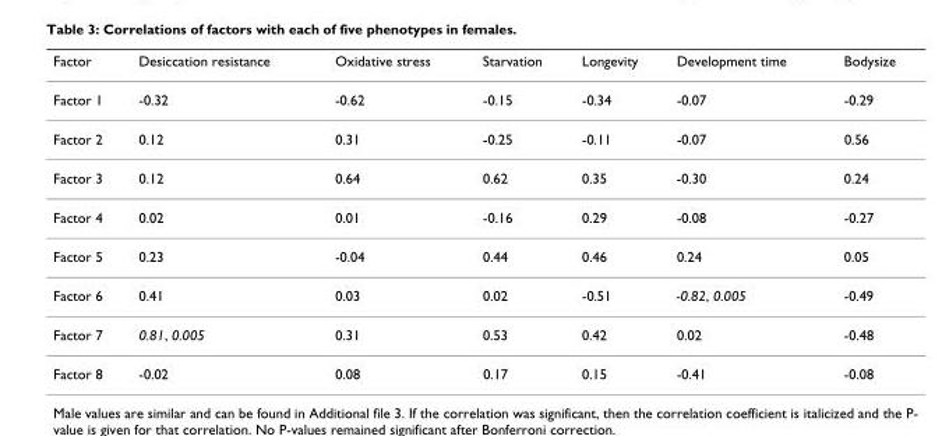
<table><thead><tr><td>Factor</td><td>Desiccation resistance</td><td>Oxidative stress</td><td>Starvation</td><td>Longevity</td><td>Development time</td><td>Bodysize</td></tr></thead><tbody><tr><td>Factor 1</td><td>-0.32</td><td>-0.62</td><td>-0.15</td><td>-0.34</td><td>-0.07</td><td>-0.29</td></tr><tr><td>Factor 2</td><td>0.12</td><td>0.31</td><td>-0.25</td><td>-0.11</td><td>-0.07</td><td>0.56</td></tr><tr><td>Factor 3</td><td>0.12</td><td>0.64</td><td>0.62</td><td>0.35</td><td>-0.30</td><td>0.24</td></tr><tr><td>Factor 4</td><td>0.02</td><td>0.01</td><td>-0.16</td><td>0.29</td><td>-0.08</td><td>-0.27</td></tr><tr><td>Factor 5</td><td>0.23</td><td>-0.04</td><td>0.44</td><td>0.46</td><td>0.24</td><td>0.05</td></tr><tr><td>Factor 6</td><td>0.41</td><td>0.03</td><td>0.02</td><td>-0.51</td><td>-0.82, 0.005</td><td>-0.49</td></tr><tr><td>Factor 7</td><td>0.81, 0.005</td><td>0.31</td><td>0.53</td><td>0.42</td><td>0.02</td><td>-0.48</td></tr><tr><td>Factor 8</td><td>-0.02</td><td>0.08</td><td>0.17</td><td>0.15</td><td>-0.41</td><td>-0.08</td></tr></tbody></table>